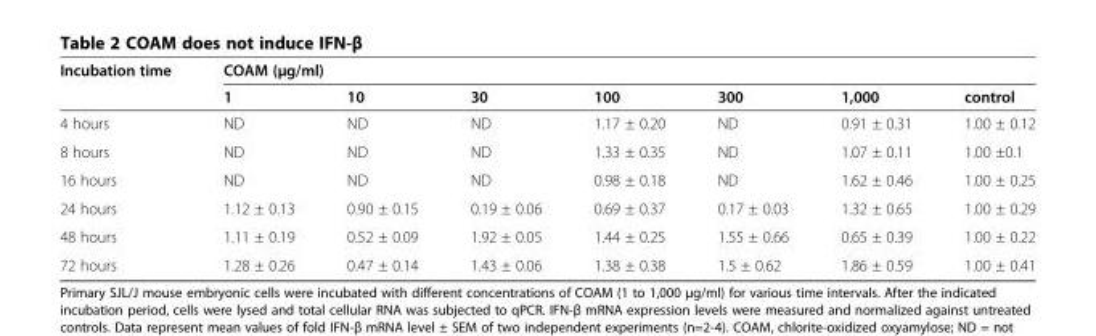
<table><thead><tr><td rowspan="2">Incubation time</td><td colspan="7">COAM (μg/ml)</td></tr><tr><td>1</td><td>10</td><td>30</td><td>100</td><td>300</td><td>1,000</td><td>control</td></tr></thead><tbody><tr><td>4 hours</td><td>ND</td><td>ND</td><td>ND</td><td>1.17 ± 0.20</td><td>ND</td><td>0.91 ± 0.31</td><td>1.00 ± 0.12</td></tr><tr><td>8 hours</td><td>ND</td><td>ND</td><td>ND</td><td>1.33 ± 0.35</td><td>ND</td><td>1.07 ± 0.11</td><td>1.00 ±0.1</td></tr><tr><td>16 hours</td><td>ND</td><td>ND</td><td>ND</td><td>0.98 ± 0.18</td><td>ND</td><td>1.62 ± 0.46</td><td>1.00 ± 0.25</td></tr><tr><td>24 hours</td><td>1.12 ± 0.13</td><td>0.90 ± 0.15</td><td>0.19 ± 0.06</td><td>0.69 ± 0.37</td><td>0.17 ± 0.03</td><td>1.32 ± 0.65</td><td>1.00 ± 0.29</td></tr><tr><td>48 hours</td><td>1.11 ± 0.19</td><td>0.52 ± 0.09</td><td>1.92 ± 0.05</td><td>1.44 ± 0.25</td><td>1.55 ± 0.66</td><td>0.65 ± 0.39</td><td>1.00 ± 0.22</td></tr><tr><td>72 hours</td><td>1.28 ± 0.26</td><td>0.47 ± 0.14</td><td>1.43 ± 0.06</td><td>1.38 ± 0.38</td><td>1.5 ± 0.62</td><td>1.86 ± 0.59</td><td>1.00 ± 0.41</td></tr></tbody></table>